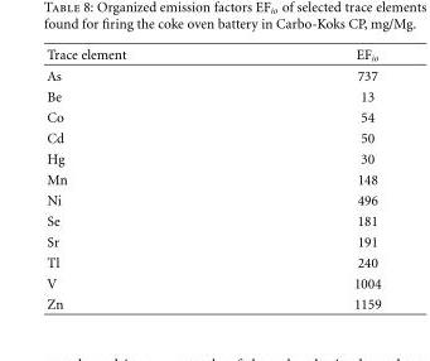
<table><thead><tr><td>Trace element</td><td>EF<sub>io</sub></td></tr></thead><tbody><tr><td>As</td><td>737</td></tr><tr><td>Be</td><td>13</td></tr><tr><td>Co</td><td>54</td></tr><tr><td>Cd</td><td>50</td></tr><tr><td>Hg</td><td>30</td></tr><tr><td>Mn</td><td>148</td></tr><tr><td>Ni</td><td>496</td></tr><tr><td>Se</td><td>181</td></tr><tr><td>Sr</td><td>191</td></tr><tr><td>Tl</td><td>240</td></tr><tr><td>V</td><td>1004</td></tr><tr><td>Zn</td><td>1159</td></tr></tbody></table>